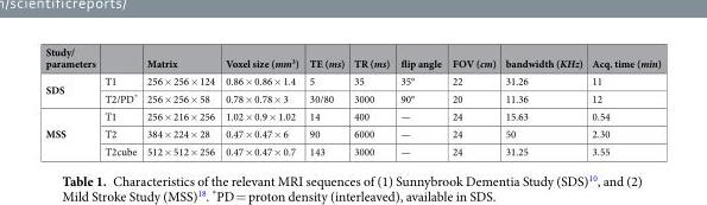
<table><thead><tr><td>Study/ parameters</td><td></td><td>Matrix</td><td>Voxel size (mm<sup>3</sup>)</td><td>TE (ms)</td><td>TR (ms)</td><td>flip angle</td><td>FOV (cm)</td><td>bandwidth (KHz)</td><td>Acq. time (min)</td></tr></thead><tbody><tr><td rowspan="2">SDS</td><td>T1</td><td>256 × 256 × 124</td><td>0.86 × 0.86 × 1.4</td><td>5</td><td>35</td><td>35°</td><td>22</td><td>31.26</td><td>11</td></tr><tr><td>T2/PD*</td><td>256 × 256 × 58</td><td>0.78 × 0.78 × 3</td><td>30/80</td><td>3000</td><td>90°</td><td>20</td><td>11.36</td><td>12</td></tr><tr><td rowspan="3">MSS</td><td>T1</td><td>256 × 216 × 256</td><td>1.02 × 0.9 × 1.02</td><td>14</td><td>400</td><td>—</td><td>24</td><td>15.63</td><td>0.54</td></tr><tr><td>T2</td><td>384 × 224 × 28</td><td>0.47 × 0.47 × 6</td><td>90</td><td>6000</td><td>—</td><td>24</td><td>50</td><td>2.30</td></tr><tr><td>T2cube</td><td>512 × 512 × 256</td><td>0.47 × 0.47 × 0.7</td><td>143</td><td>3000</td><td>—</td><td>24</td><td>31.25</td><td>3.55</td></tr></tbody></table>